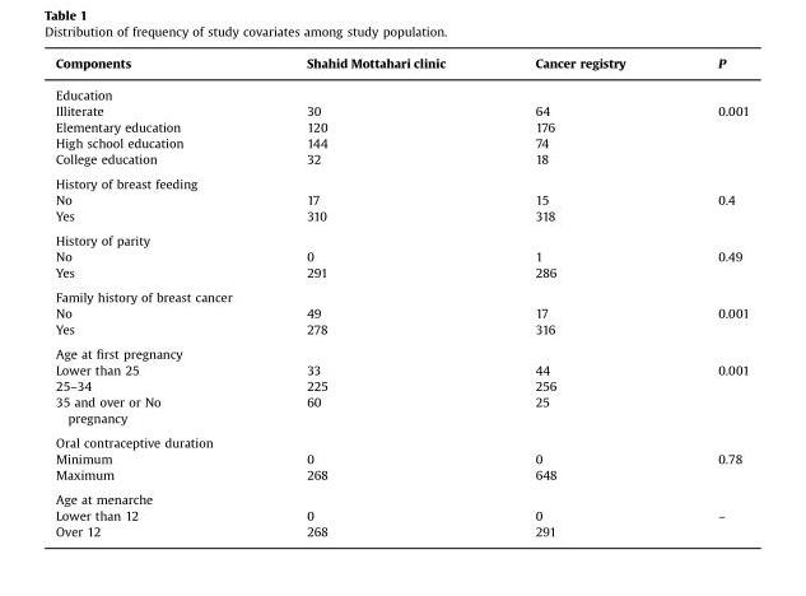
<table><thead><tr><td>Components</td><td>Shahid Mottahari clinic</td><td>Cancer registry</td><td>P</td></tr></thead><tbody><tr><td colspan="4">Education</td></tr><tr><td>Illiterate</td><td>30</td><td>64</td><td rowspan="4">0.001</td></tr><tr><td>Elementary education</td><td>120</td><td>176</td></tr><tr><td>High school education</td><td>144</td><td>74</td></tr><tr><td>College education</td><td>32</td><td>18</td></tr><tr><td colspan="4">History of breast feeding</td></tr><tr><td>No</td><td>17</td><td>15</td><td rowspan="2">0.4</td></tr><tr><td>Yes</td><td>310</td><td>318</td></tr><tr><td colspan="4">History of parity</td></tr><tr><td>No</td><td>0</td><td>1</td><td rowspan="2">0.49</td></tr><tr><td>Yes</td><td>291</td><td>286</td></tr><tr><td colspan="4">Family history of breast cancer</td></tr><tr><td>No</td><td>49</td><td>17</td><td rowspan="2">0.001</td></tr><tr><td>Yes</td><td>278</td><td>316</td></tr><tr><td colspan="4">Age at first pregnancy</td></tr><tr><td>Lower than 25</td><td>33</td><td>44</td><td rowspan="3">0.001</td></tr><tr><td>25–34</td><td>225</td><td>256</td></tr><tr><td>35 and over or No pregnancy</td><td>60</td><td>25</td></tr><tr><td colspan="4">Oral contraceptive duration</td></tr><tr><td>Minimum</td><td>0</td><td>0</td><td rowspan="2">0.78</td></tr><tr><td>Maximum</td><td>268</td><td>648</td></tr><tr><td colspan="4">Age at menarche</td></tr><tr><td>Lower than 12</td><td>0</td><td>0</td><td rowspan="2">–</td></tr><tr><td>Over 12</td><td>268</td><td>291</td></tr></tbody></table>